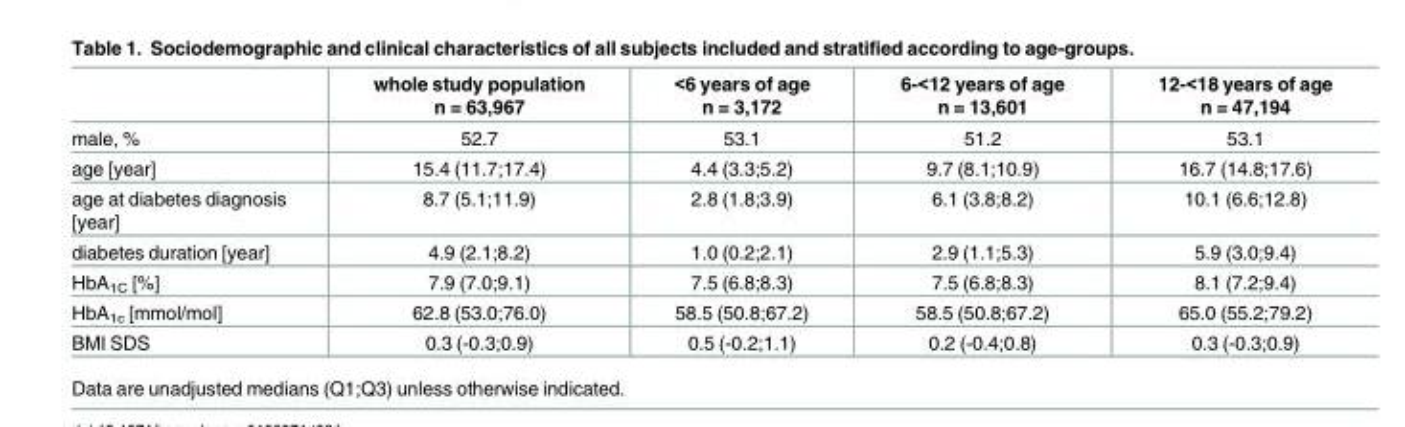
<table><thead><tr><td></td><td>whole study population n = 63,967</td><td>&lt;6 years of age n = 3,172</td><td>6-&lt;12 years of age n = 13,601</td><td>12-&lt;18 years of age n = 47,194</td></tr></thead><tbody><tr><td>male, %</td><td>52.7</td><td>53.1</td><td>51.2</td><td>53.1</td></tr><tr><td>age [year]</td><td>15.4 (11.7;17.4)</td><td>4.4 (3.3;5.2)</td><td>9.7 (8.1;10.9)</td><td>16.7 (14.8;17.6)</td></tr><tr><td>age at diabetes diagnosis [year]</td><td>8.7 (5.1;11.9)</td><td>2.8 (1.8;3.9)</td><td>6.1 (3.8;8.2)</td><td>10.1 (6.6;12.8)</td></tr><tr><td>diabetes duration [year]</td><td>4.9 (2.1;8.2)</td><td>1.0 (0.2;2.1)</td><td>2.9 (1.1;5.3)</td><td>5.9 (3.0;9.4)</td></tr><tr><td>HbA<sub>1C</sub> [%]</td><td>7.9 (7.0;9.1)</td><td>7.5 (6.8;8.3)</td><td>7.5 (6.8;8.3)</td><td>8.1 (7.2;9.4)</td></tr><tr><td>HbA<sub>1c</sub> [mmol/mol]</td><td>62.8 (53.0;76.0)</td><td>58.5 (50.8;67.2)</td><td>58.5 (50.8;67.2)</td><td>65.0 (55.2;79.2)</td></tr><tr><td>BMI SDS</td><td>0.3 (-0.3;0.9)</td><td>0.5 (-0.2;1.1)</td><td>0.2 (-0.4;0.8)</td><td>0.3 (-0.3;0.9)</td></tr></tbody></table>